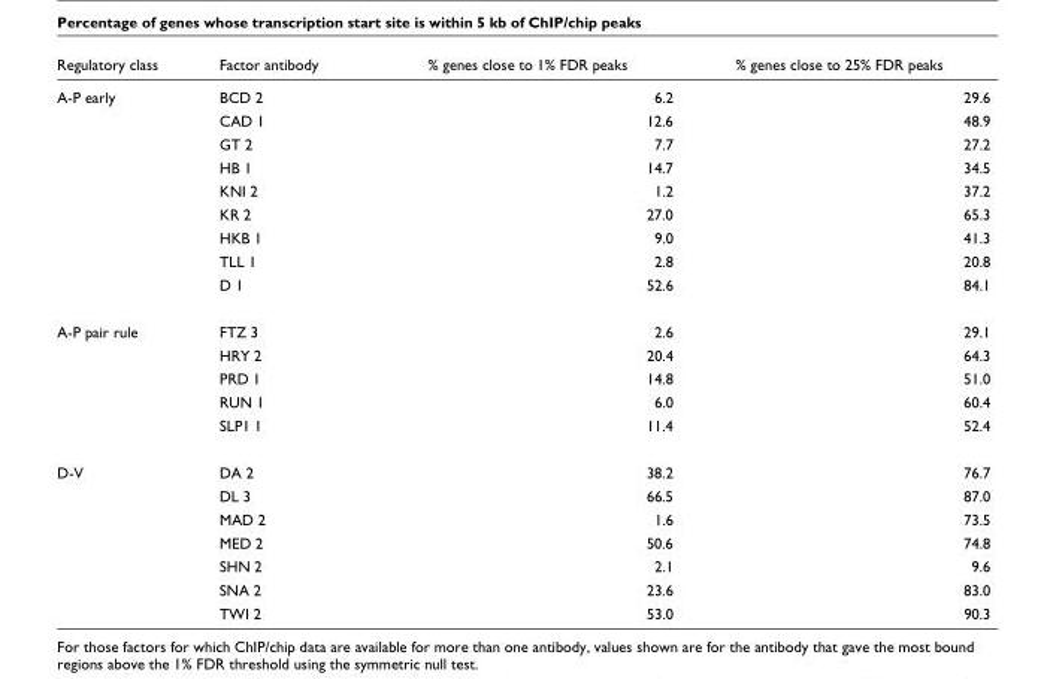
<table><thead><tr><td>Regulatory class</td><td>Factor antibody</td><td>% genes close to 1% FDR peaks</td><td>% genes close to 25% FDR peaks</td></tr></thead><tbody><tr><td rowspan="9">A-P early</td><td>BCD 2</td><td>6.2</td><td>29.6</td></tr><tr><td>CAD 1</td><td>12.6</td><td>48.9</td></tr><tr><td>GT 2</td><td>7.7</td><td>27.2</td></tr><tr><td>HB 1</td><td>14.7</td><td>34.5</td></tr><tr><td>KNI 2</td><td>1.2</td><td>37.2</td></tr><tr><td>KR 2</td><td>27.0</td><td>65.3</td></tr><tr><td>HKB 1</td><td>9.0</td><td>41.3</td></tr><tr><td>TLL 1</td><td>2.8</td><td>20.8</td></tr><tr><td>D 1</td><td>52.6</td><td>84.1</td></tr><tr><td rowspan="5">A-P pair rule</td><td>FTZ 3</td><td>2.6</td><td>29.1</td></tr><tr><td>HRY 2</td><td>20.4</td><td>64.3</td></tr><tr><td>PRD 1</td><td>14.8</td><td>51.0</td></tr><tr><td>RUN 1</td><td>6.0</td><td>60.4</td></tr><tr><td>SLP1 1</td><td>11.4</td><td>52.4</td></tr><tr><td rowspan="7">D-V</td><td>DA 2</td><td>38.2</td><td>76.7</td></tr><tr><td>DL 3</td><td>66.5</td><td>87.0</td></tr><tr><td>MAD 2</td><td>1.6</td><td>73.5</td></tr><tr><td>MED 2</td><td>50.6</td><td>74.8</td></tr><tr><td>SHN 2</td><td>2.1</td><td>9.6</td></tr><tr><td>SNA 2</td><td>23.6</td><td>83.0</td></tr><tr><td>TWI 2</td><td>53.0</td><td>90.3</td></tr></tbody></table>